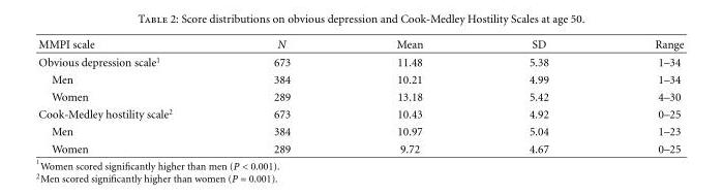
<table><thead><tr><td>MMPI scale</td><td>N</td><td>Mean</td><td>SD</td><td>Range</td></tr></thead><tbody><tr><td>Obvious depression scale<sup>1</sup></td><td>673</td><td>11.48</td><td>5.38</td><td>1–34</td></tr><tr><td>Men</td><td>384</td><td>10.21</td><td>4.99</td><td>1–34</td></tr><tr><td>Women</td><td>289</td><td>13.18</td><td>5.42</td><td>4–30</td></tr><tr><td>Cook-Medley hostility scale<sup>2</sup></td><td>673</td><td>10.43</td><td>4.92</td><td>0–25</td></tr><tr><td>Men</td><td>384</td><td>10.97</td><td>5.04</td><td>1–23</td></tr><tr><td>Women</td><td>289</td><td>9.72</td><td>4.67</td><td>0–25</td></tr></tbody></table>